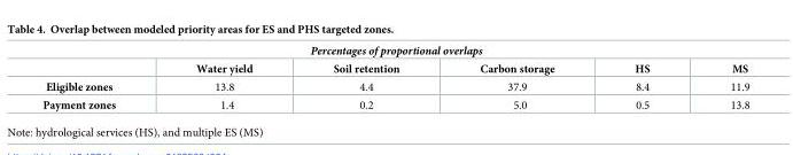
<table><thead><tr><td colspan="6">Percentages of proportional overlaps</td></tr><tr><td></td><td>Water yield</td><td>Soil retention</td><td>Carbon storage</td><td>HS</td><td>MS</td></tr></thead><tbody><tr><td>Eligible zones</td><td>13.8</td><td>4.4</td><td>37.9</td><td>8.4</td><td>11.9</td></tr><tr><td>Payment zones</td><td>1.4</td><td>0.2</td><td>5.0</td><td>0.5</td><td>13.8</td></tr></tbody></table>